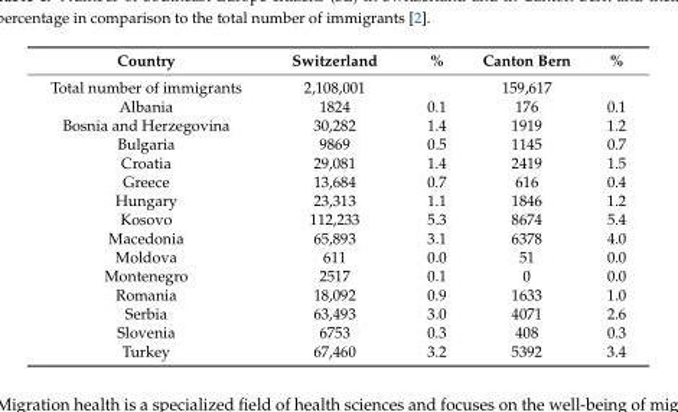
<table><thead><tr><td>Country</td><td>Switzerland</td><td>%</td><td>Canton Bern</td><td>%</td></tr></thead><tbody><tr><td>Total number of immigrants</td><td>2,108,001</td><td></td><td>159,617</td><td></td></tr><tr><td>Albania</td><td>1824</td><td>0.1</td><td>176</td><td>0.1</td></tr><tr><td>Bosnia and Herzegovina</td><td>30,282</td><td>1.4</td><td>1919</td><td>1.2</td></tr><tr><td>Bulgaria</td><td>9869</td><td>0.5</td><td>1145</td><td>0.7</td></tr><tr><td>Croatia</td><td>29,081</td><td>1.4</td><td>2419</td><td>1.5</td></tr><tr><td>Greece</td><td>13,684</td><td>0.7</td><td>616</td><td>0.4</td></tr><tr><td>Hungary</td><td>23,313</td><td>1.1</td><td>1846</td><td>1.2</td></tr><tr><td>Kosovo</td><td>112,233</td><td>5.3</td><td>8674</td><td>5.4</td></tr><tr><td>Macedonia</td><td>65,893</td><td>3.1</td><td>6378</td><td>4.0</td></tr><tr><td>Moldova</td><td>611</td><td>0.0</td><td>51</td><td>0.0</td></tr><tr><td>Montenegro</td><td>2517</td><td>0.1</td><td>0</td><td>0.0</td></tr><tr><td>Romania</td><td>18,092</td><td>0.9</td><td>1633</td><td>1.0</td></tr><tr><td>Serbia</td><td>63,493</td><td>3.0</td><td>4071</td><td>2.6</td></tr><tr><td>Slovenia</td><td>6753</td><td>0.3</td><td>408</td><td>0.3</td></tr><tr><td>Turkey</td><td>67,460</td><td>3.2</td><td>5392</td><td>3.4</td></tr></tbody></table>